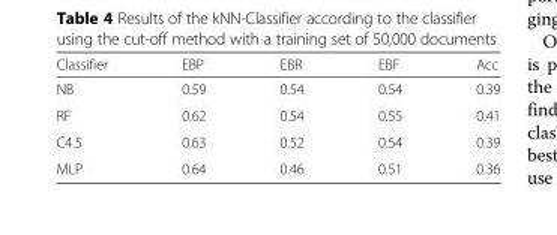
<table><thead><tr><td>Classifier</td><td>EBP</td><td>EBR</td><td>EBF</td><td>Acc</td></tr></thead><tbody><tr><td>NB</td><td>0.59</td><td>0.54</td><td>0.54</td><td>0.39</td></tr><tr><td>RF</td><td>0.62</td><td>0.54</td><td>0.55</td><td>0.41</td></tr><tr><td>C4.5</td><td>0.63</td><td>0.52</td><td>0.54</td><td>0.39</td></tr><tr><td>MLP</td><td>0.64</td><td>0.46</td><td>0.51</td><td>0.36</td></tr></tbody></table>